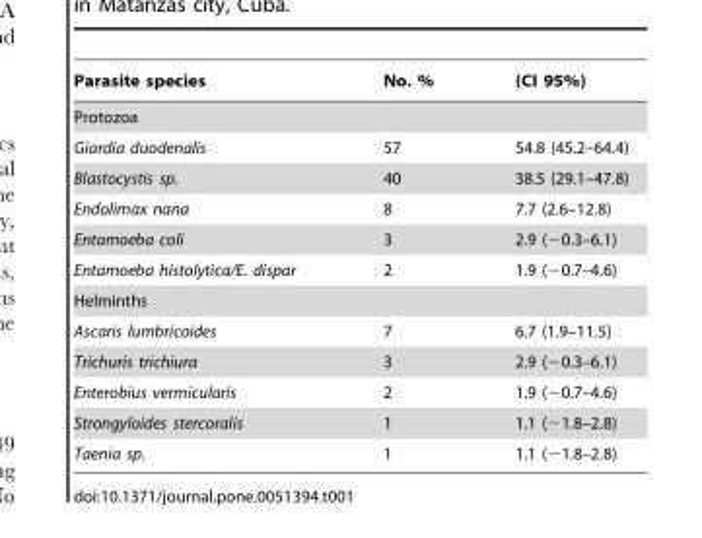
<table><thead><tr><td>Parasite species</td><td>No. %</td><td>(CI 95%)</td></tr></thead><tbody><tr><td colspan="3">Protozoa</td></tr><tr><td>Giardia duodenalis</td><td>57</td><td>54.8 (45.2–64.4)</td></tr><tr><td>Blastocystis sp.</td><td>40</td><td>38.5 (29.1–47.8)</td></tr><tr><td>Endolimax nana</td><td>8</td><td>7.7 (2.6–12.8)</td></tr><tr><td>Entamoeba coli</td><td>3</td><td>2.9 (−0.3–6.1)</td></tr><tr><td>Entamoeba histolytica/E. dispar</td><td>2</td><td>1.9 (−0.7–4.6)</td></tr><tr><td colspan="3">Helminths</td></tr><tr><td>Ascaris lumbricoides</td><td>7</td><td>6.7 (1.9–11.5)</td></tr><tr><td>Trichuris trichiura</td><td>3</td><td>2.9 (−0.3–6.1)</td></tr><tr><td>Enterobius vermicularis</td><td>2</td><td>1.9 (−0.7–4.6)</td></tr><tr><td>Strongyloides stercoralis</td><td>1</td><td>1.1 (−1.8–2.8)</td></tr><tr><td>Taenia sp.</td><td>1</td><td>1.1 (−1.8–2.8)</td></tr></tbody></table>